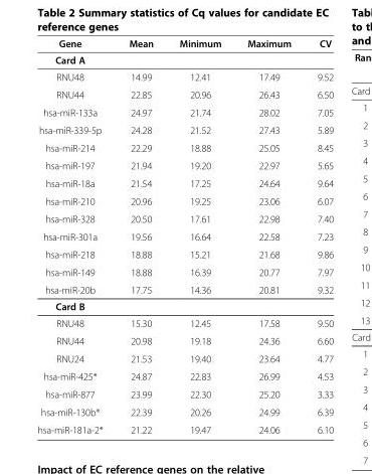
<table><thead><tr><td>Gene</td><td>Mean</td><td>Minimum</td><td>Maximum</td><td>CV</td></tr></thead><tbody><tr><td colspan="5">Card A</td></tr><tr><td>RNU48</td><td>14.99</td><td>12.41</td><td>17.49</td><td>9.52</td></tr><tr><td>RNU44</td><td>22.85</td><td>20.96</td><td>26.43</td><td>6.50</td></tr><tr><td>hsa-miR-133a</td><td>24.97</td><td>21.74</td><td>28.02</td><td>7.05</td></tr><tr><td>hsa-miR-339-5p</td><td>24.28</td><td>21.52</td><td>27.43</td><td>5.89</td></tr><tr><td>hsa-miR-214</td><td>22.29</td><td>18.88</td><td>25.05</td><td>8.45</td></tr><tr><td>hsa-miR-197</td><td>21.94</td><td>19.20</td><td>22.97</td><td>5.65</td></tr><tr><td>hsa-miR-18a</td><td>21.54</td><td>17.25</td><td>24.64</td><td>9.64</td></tr><tr><td>hsa-miR-210</td><td>20.96</td><td>19.25</td><td>23.06</td><td>6.07</td></tr><tr><td>hsa-miR-328</td><td>20.50</td><td>17.61</td><td>22.98</td><td>7.40</td></tr><tr><td>hsa-miR-301a</td><td>19.56</td><td>16.64</td><td>22.58</td><td>7.23</td></tr><tr><td>hsa-miR-218</td><td>18.88</td><td>15.21</td><td>21.68</td><td>9.86</td></tr><tr><td>hsa-miR-149</td><td>18.88</td><td>16.39</td><td>20.77</td><td>7.97</td></tr><tr><td>hsa-miR-20b</td><td>17.75</td><td>14.36</td><td>20.81</td><td>9.32</td></tr><tr><td colspan="5">Card B</td></tr><tr><td>RNU48</td><td>15.30</td><td>12.45</td><td>17.58</td><td>9.50</td></tr><tr><td>RNU44</td><td>20.98</td><td>19.18</td><td>24.36</td><td>6.60</td></tr><tr><td>RNU24</td><td>21.53</td><td>19.40</td><td>23.64</td><td>4.77</td></tr><tr><td>hsa-miR-425*</td><td>24.87</td><td>22.83</td><td>26.99</td><td>4.53</td></tr><tr><td>hsa-miR-877</td><td>23.99</td><td>22.30</td><td>25.20</td><td>3.33</td></tr><tr><td>hsa-miR-130b*</td><td>22.39</td><td>20.26</td><td>24.99</td><td>6.39</td></tr><tr><td>hsa-miR-181a-2*</td><td>21.22</td><td>19.47</td><td>24.06</td><td>6.10</td></tr></tbody></table>